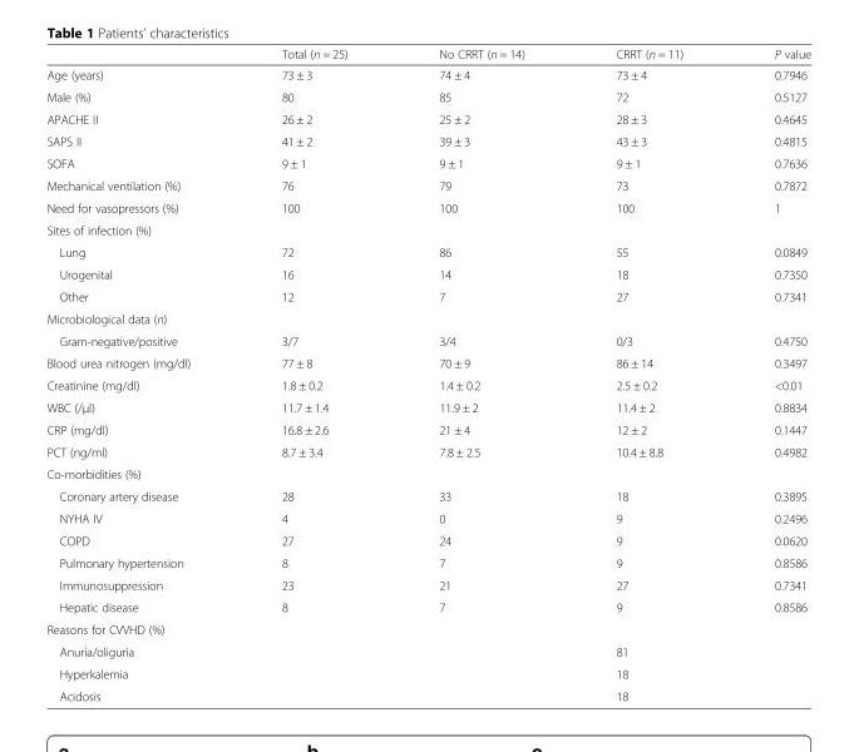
<table><thead><tr><td></td><td>Total (n = 25)</td><td>No CRRT (n = 14)</td><td>CRRT (n = 11)</td><td>P value</td></tr></thead><tbody><tr><td>Age (years)</td><td>73 ± 3</td><td>74 ± 4</td><td>73 ± 4</td><td>0.7946</td></tr><tr><td>Male (%)</td><td>80</td><td>85</td><td>72</td><td>0.5127</td></tr><tr><td>APACHE II</td><td>26 ± 2</td><td>25 ± 2</td><td>28 ± 3</td><td>0.4645</td></tr><tr><td>SAPS II</td><td>41 ± 2</td><td>39 ± 3</td><td>43 ± 3</td><td>0.4815</td></tr><tr><td>SOFA</td><td>9 ± 1</td><td>9 ± 1</td><td>9 ± 1</td><td>0.7636</td></tr><tr><td>Mechanical ventilation (%)</td><td>76</td><td>79</td><td>73</td><td>0.7872</td></tr><tr><td>Need for vasopressors (%)</td><td>100</td><td>100</td><td>100</td><td>1</td></tr><tr><td colspan="5">Sites of infection (%)</td></tr><tr><td>Lung</td><td>72</td><td>86</td><td>55</td><td>0.0849</td></tr><tr><td>Urogenital</td><td>16</td><td>14</td><td>18</td><td>0.7350</td></tr><tr><td>Other</td><td>12</td><td>7</td><td>27</td><td>0.7341</td></tr><tr><td colspan="5">Microbiological data (n)</td></tr><tr><td>Gram-negative/positive</td><td>3/7</td><td>3/4</td><td>0/3</td><td>0.4750</td></tr><tr><td>Blood urea nitrogen (mg/dl)</td><td>77 ± 8</td><td>70 ± 9</td><td>86 ± 14</td><td>0.3497</td></tr><tr><td>Creatinine (mg/dl)</td><td>1.8 ± 0.2</td><td>1.4 ± 0.2</td><td>2.5 ± 0.2</td><td>&lt;0.01</td></tr><tr><td>WBC (/μl)</td><td>11.7 ± 1.4</td><td>11.9 ± 2</td><td>11.4 ± 2</td><td>0.8834</td></tr><tr><td>CRP (mg/dl)</td><td>16.8 ± 2.6</td><td>21 ± 4</td><td>12 ± 2</td><td>0.1447</td></tr><tr><td>PCT (ng/ml)</td><td>8.7 ± 3.4</td><td>7.8 ± 2.5</td><td>10.4 ± 8.8</td><td>0.4982</td></tr><tr><td colspan="5">Co-morbidities (%)</td></tr><tr><td>Coronary artery disease</td><td>28</td><td>33</td><td>18</td><td>0.3895</td></tr><tr><td>NYHA IV</td><td>4</td><td>0</td><td>9</td><td>0.2496</td></tr><tr><td>COPD</td><td>27</td><td>24</td><td>9</td><td>0.0620</td></tr><tr><td>Pulmonary hypertension</td><td>8</td><td>7</td><td>9</td><td>0.8586</td></tr><tr><td>Immunosuppression</td><td>23</td><td>21</td><td>27</td><td>0.7341</td></tr><tr><td>Hepatic disease</td><td>8</td><td>7</td><td>9</td><td>0.8586</td></tr><tr><td colspan="5">Reasons for CVVHD (%)</td></tr><tr><td>Anuria/oliguria</td><td></td><td></td><td>81</td><td></td></tr><tr><td>Hyperkalemia</td><td></td><td></td><td>18</td><td></td></tr><tr><td>Acidosis</td><td></td><td></td><td>18</td><td></td></tr></tbody></table>